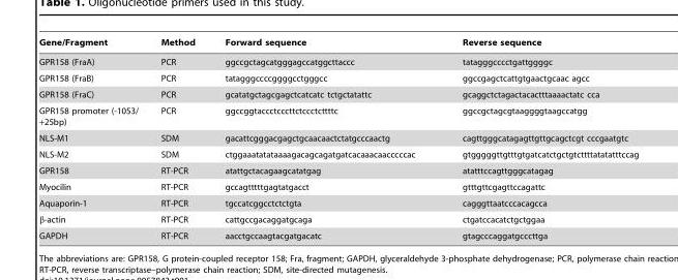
<table><thead><tr><td>Gene/Fragment</td><td>Method</td><td>Forward sequence</td><td>Reverse sequence</td></tr></thead><tbody><tr><td>GPR158 (FraA)</td><td>PCR</td><td>ggccgctagcatgggagccatggcttaccc</td><td>tatagggcccctgattggggc</td></tr><tr><td>GPR158 (FraB)</td><td>PCR</td><td>tatagggccccggggcctgggcc</td><td>ggccgagctcattgtgaactgcaac agcc</td></tr><tr><td>GPR158 (FraC)</td><td>PCR</td><td>gcatatgctagcgagctcatcatc tctgctatattc</td><td>gcaggctctagactacactttaaaactatc cca</td></tr><tr><td>GPR158 promoter (-1053/ +25bp)</td><td>PCR</td><td>ggccggtaccctcccttctccctcttttc</td><td>ggccgctagcgtaaggggtaagccatgg</td></tr><tr><td>NLS-M1</td><td>SDM</td><td>gacattcgggacgagctgcaacaactctatgcccaactg</td><td>cagttgggcatagagttgttgcagctcgt cccgaatgtc</td></tr><tr><td>NLS-M2</td><td>SDM</td><td>ctggaaatatataaaagacagcagatgatcacaaacaacccccac</td><td>gtgggggttgtttgtgatcatctgctgtcttttatatatttccag</td></tr><tr><td>GPR158</td><td>RT-PCR</td><td>atattgctacagaagcatatgag</td><td>atatttccagttgggcatagag</td></tr><tr><td>Myocilin</td><td>RT-PCR</td><td>gccagtttttgagtatgacct</td><td>gtttgttcgagttccagattc</td></tr><tr><td>Aquaporin-1</td><td>RT-PCR</td><td>tgccatcggcctctctgta</td><td>cagggttaatcccacagcca</td></tr><tr><td>β-actin</td><td>RT-PCR</td><td>cattgccgacaggatgcaga</td><td>ctgatccacatctgctggaa</td></tr><tr><td>GAPDH</td><td>RT-PCR</td><td>aacctgccaagtacgatgacatc</td><td>gtagcccaggatgcccttga</td></tr></tbody></table>